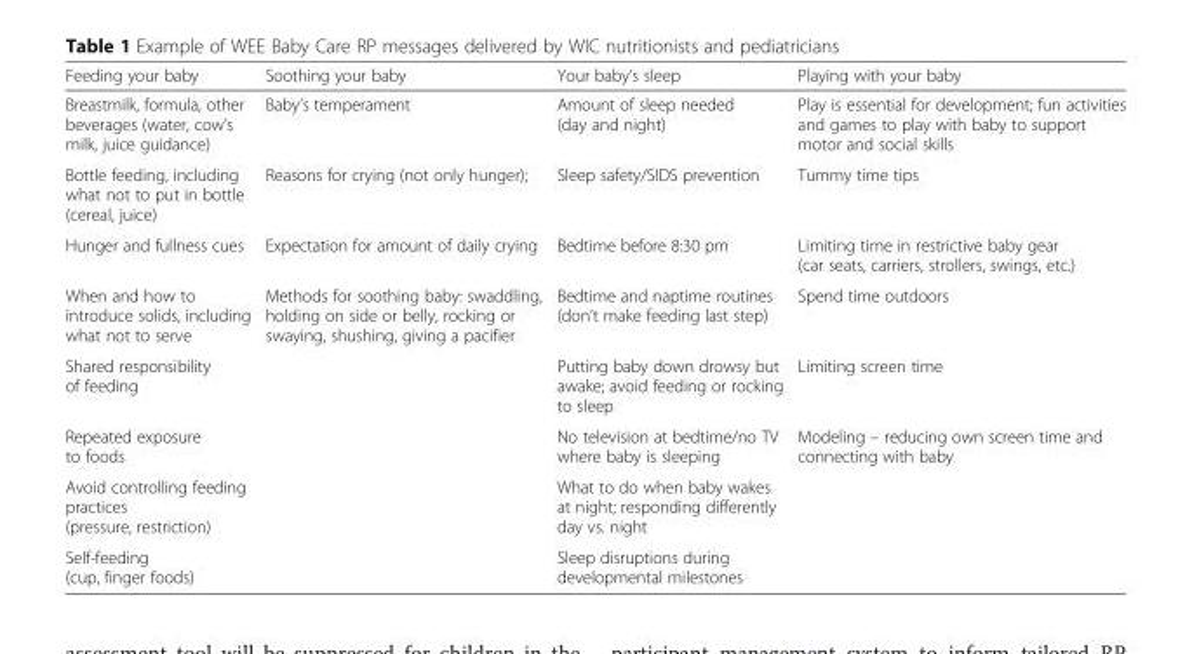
<table><thead><tr><td>Feeding your baby</td><td>Soothing your baby</td><td>Your baby’s sleep</td><td>Playing with your baby</td></tr></thead><tbody><tr><td>Breastmilk, formula, other beverages (water, cow’s milk, juice guidance)</td><td>Baby’s temperament</td><td>Amount of sleep needed (day and night)</td><td>Play is essential for development; fun activities and games to play with baby to support motor and social skills</td></tr><tr><td>Bottle feeding, including what not to put in bottle (cereal, juice)</td><td>Reasons for crying (not only hunger);</td><td>Sleep safety/SIDS prevention</td><td>Tummy time tips</td></tr><tr><td>Hunger and fullness cues</td><td>Expectation for amount of daily crying</td><td>Bedtime before 8:30 pm</td><td>Limiting time in restrictive baby gear (car seats, carriers, strollers, swings, etc.)</td></tr><tr><td>When and how to introduce solids, including what not to serve</td><td>Methods for soothing baby: swaddling, holding on side or belly, rocking or swaying, shushing, giving a pacifier</td><td>Bedtime and naptime routines (don’t make feeding last step)</td><td>Spend time outdoors</td></tr><tr><td>Shared responsibility of feeding</td><td></td><td>Putting baby down drowsy but awake; avoid feeding or rocking to sleep</td><td>Limiting screen time</td></tr><tr><td>Repeated exposure to foods</td><td></td><td>No television at bedtime/no TV where baby is sleeping</td><td>Modeling – reducing own screen time and connecting with baby</td></tr><tr><td>Avoid controlling feeding practices (pressure, restriction)</td><td></td><td>What to do when baby wakes at night; responding differently day vs. night</td><td></td></tr><tr><td>Self-feeding (cup, finger foods)</td><td></td><td>Sleep disruptions during developmental milestones</td><td></td></tr></tbody></table>